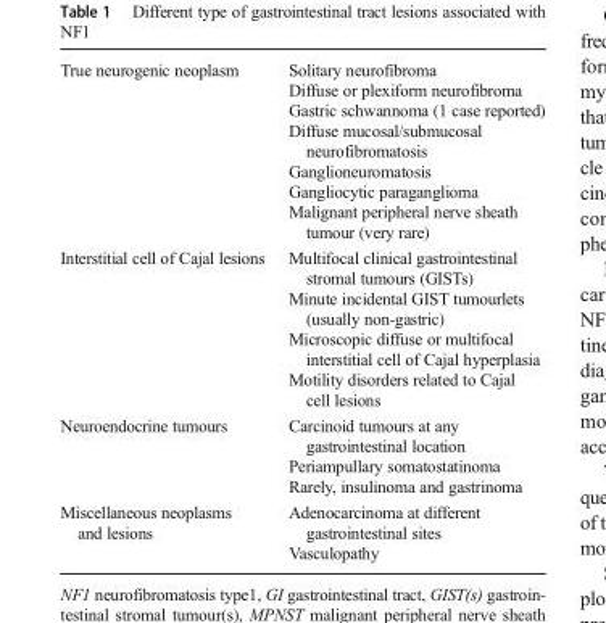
<table><tbody><tr><td>True neurogenic neoplasm</td><td>Solitary neurofibroma Diffuse or plexiform neurofibroma Gastric schwannoma (1 case reported) Diffuse mucosal/submucosal neurofibromatosis Ganglioneuromatosis Gangliocytic paraganglioma Malignant peripheral nerve sheath tumour (very rare)</td></tr><tr><td>Interstitial cell of Cajal lesions</td><td>Multifocal clinical gastrointestinal stromal tumours (GISTs) Minute incidental GIST tumourlets (usually non-gastric) Microscopic diffuse or multifocal interstitial cell of Cajal hyperplasia Motility disorders related to Cajal cell lesions</td></tr><tr><td>Neuroendocrine tumours</td><td>Carcinoid tumours at any gastrointestinal location Periampullary somatostatinoma Rarely, insulinoma and gastrinoma</td></tr><tr><td>Miscellaneous neoplasms and lesions</td><td>Adenocarcinoma at different gastrointestinal sites Vasculopathy</td></tr></tbody></table>